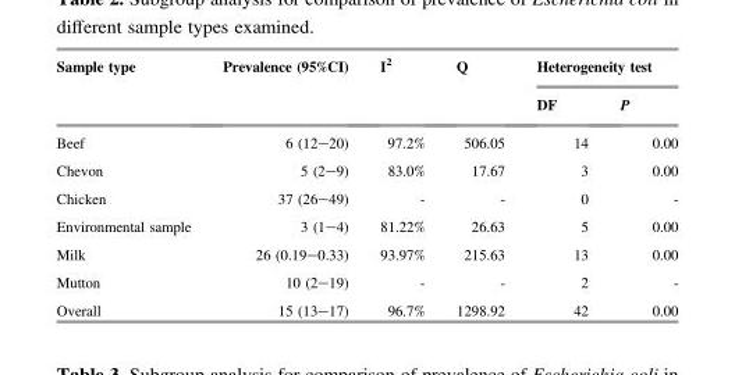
<table><thead><tr><td rowspan="2">Sample type</td><td rowspan="2">Prevalence (95%CI)</td><td rowspan="2">I<sup>2</sup></td><td rowspan="2">Q</td><td colspan="2">Heterogeneity test</td></tr><tr><td>DF</td><td>P</td></tr></thead><tbody><tr><td>Beef</td><td>6 (12–20)</td><td>97.2%</td><td>506.05</td><td>14</td><td>0.00</td></tr><tr><td>Chevon</td><td>5 (2–9)</td><td>83.0%</td><td>17.67</td><td>3</td><td>0.00</td></tr><tr><td>Chicken</td><td>37 (26–49)</td><td>-</td><td>-</td><td>0</td><td>-</td></tr><tr><td>Environmental sample</td><td>3 (1–4)</td><td>81.22%</td><td>26.63</td><td>5</td><td>0.00</td></tr><tr><td>Milk</td><td>26 (0.19–0.33)</td><td>93.97%</td><td>215.63</td><td>13</td><td>0.00</td></tr><tr><td>Mutton</td><td>10 (2–19)</td><td>-</td><td>-</td><td>2</td><td>-</td></tr><tr><td>Overall</td><td>15 (13–17)</td><td>96.7%</td><td>1298.92</td><td>42</td><td>0.00</td></tr></tbody></table>